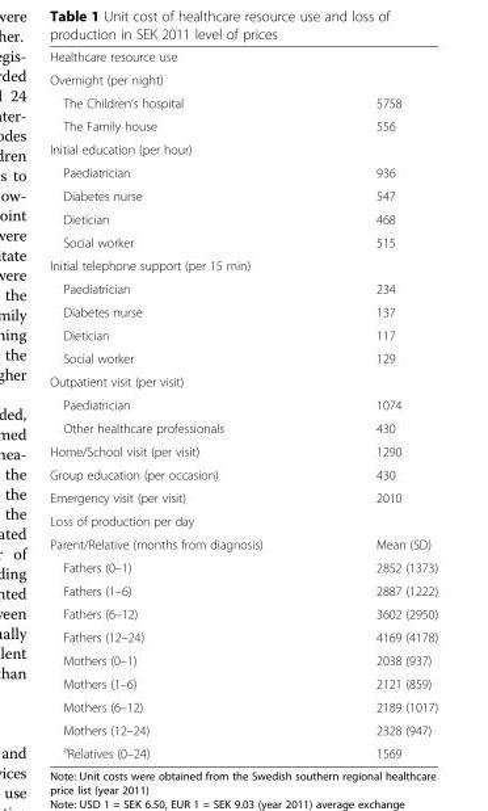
<table><tbody><tr><td colspan="2">Healthcare resource use</td></tr><tr><td colspan="2">Overnight (per night)</td></tr><tr><td>The Children’s hospital</td><td>5758</td></tr><tr><td>The Family house</td><td>556</td></tr><tr><td colspan="2">Initial education (per hour)</td></tr><tr><td>Paediatrician</td><td>936</td></tr><tr><td>Diabetes nurse</td><td>547</td></tr><tr><td>Dietician</td><td>468</td></tr><tr><td>Social worker</td><td>515</td></tr><tr><td colspan="2">Initial telephone support (per 15 min)</td></tr><tr><td>Paediatrician</td><td>234</td></tr><tr><td>Diabetes nurse</td><td>137</td></tr><tr><td>Dietician</td><td>117</td></tr><tr><td>Social worker</td><td>129</td></tr><tr><td colspan="2">Outpatient visit (per visit)</td></tr><tr><td>Paediatrician</td><td>1074</td></tr><tr><td>Other healthcare professionals</td><td>430</td></tr><tr><td>Home/School visit (per visit)</td><td>1290</td></tr><tr><td>Group education (per occasion)</td><td>430</td></tr><tr><td>Emergency visit (per visit)</td><td>2010</td></tr><tr><td colspan="2">Loss of production per day</td></tr><tr><td>Parent/Relative (months from diagnosis)</td><td>Mean (SD)</td></tr><tr><td>Fathers (0–1)</td><td>2852 (1373)</td></tr><tr><td>Fathers (1–6)</td><td>2887 (1222)</td></tr><tr><td>Fathers (6–12)</td><td>3602 (2950)</td></tr><tr><td>Fathers (12–24)</td><td>4169 (4178)</td></tr><tr><td>Mothers (0–1)</td><td>2038 (937)</td></tr><tr><td>Mothers (1–6)</td><td>2121 (859)</td></tr><tr><td>Mothers (6–12)</td><td>2189 (1017)</td></tr><tr><td>Mothers (12–24)</td><td>2328 (947)</td></tr><tr><td><sup>a</sup>Relatives (0–24)</td><td>1569</td></tr></tbody></table>